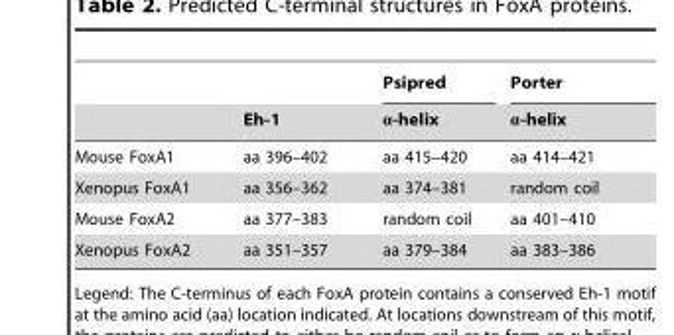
<table><thead><tr><td rowspan="2"></td><td rowspan="2">Eh-1</td><td rowspan="2">Psipred α-helix</td><td rowspan="2">Porter α-helix</td></tr><tr></tr></thead><tbody><tr><td>Mouse FoxA1</td><td>aa 396–402</td><td>aa 415–420</td><td>aa 414–421</td></tr><tr><td>Xenopus FoxA1</td><td>aa 356–362</td><td>aa 374–381</td><td>random coil</td></tr><tr><td>Mouse FoxA2</td><td>aa 377–383</td><td>random coil</td><td>aa 401–410</td></tr><tr><td>Xenopus FoxA2</td><td>aa 351–357</td><td>aa 379–384</td><td>aa 383–386</td></tr></tbody></table>